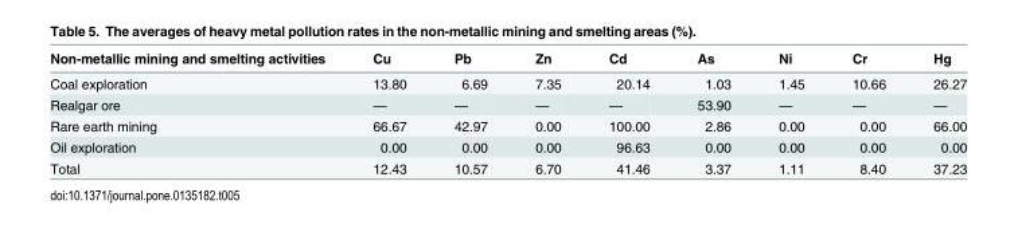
<table><thead><tr><td>Non-metallic mining and smelting activities</td><td>Cu</td><td>Pb</td><td>Zn</td><td>Cd</td><td>As</td><td>Ni</td><td>Cr</td><td>Hg</td></tr></thead><tbody><tr><td>Coal exploration</td><td>13.80</td><td>6.69</td><td>7.35</td><td>20.14</td><td>1.03</td><td>1.45</td><td>10.66</td><td>26.27</td></tr><tr><td>Realgar ore</td><td>—</td><td>—</td><td>—</td><td>—</td><td>53.90</td><td>—</td><td>—</td><td>—</td></tr><tr><td>Rare earth mining</td><td>66.67</td><td>42.97</td><td>0.00</td><td>100.00</td><td>2.86</td><td>0.00</td><td>0.00</td><td>66.00</td></tr><tr><td>Oil exploration</td><td>0.00</td><td>0.00</td><td>0.00</td><td>96.63</td><td>0.00</td><td>0.00</td><td>0.00</td><td>0.00</td></tr><tr><td>Total</td><td>12.43</td><td>10.57</td><td>6.70</td><td>41.46</td><td>3.37</td><td>1.11</td><td>8.40</td><td>37.23</td></tr></tbody></table>